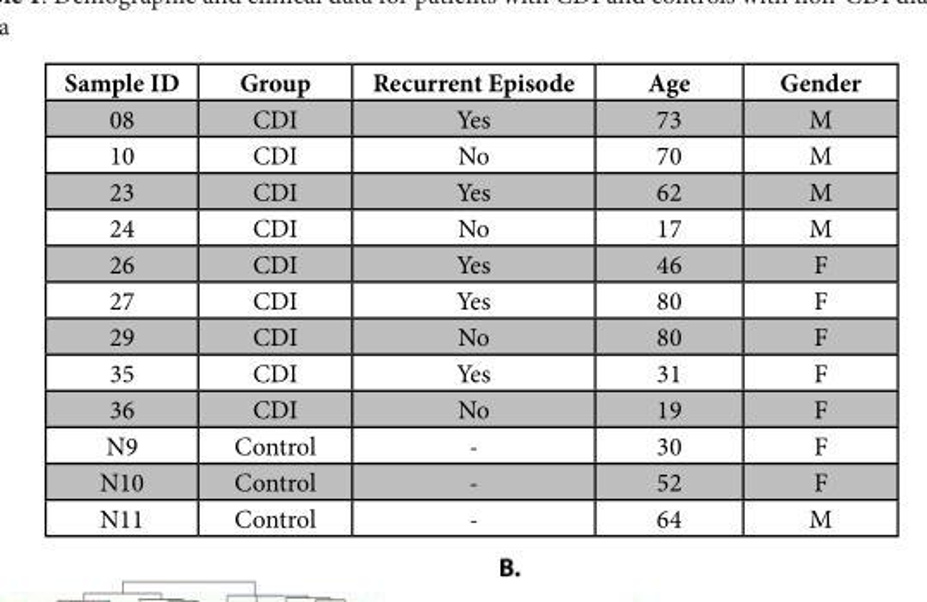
<table><thead><tr><td>Sample ID</td><td>Group</td><td>Recurrent Episode</td><td>Age</td><td>Gender</td></tr></thead><tbody><tr><td>08</td><td>CDI</td><td>Yes</td><td>73</td><td>M</td></tr><tr><td>10</td><td>CDI</td><td>No</td><td>70</td><td>M</td></tr><tr><td>23</td><td>CDI</td><td>Yes</td><td>62</td><td>M</td></tr><tr><td>24</td><td>CDI</td><td>No</td><td>17</td><td>M</td></tr><tr><td>26</td><td>CDI</td><td>Yes</td><td>46</td><td>F</td></tr><tr><td>27</td><td>CDI</td><td>Yes</td><td>80</td><td>F</td></tr><tr><td>29</td><td>CDI</td><td>No</td><td>80</td><td>F</td></tr><tr><td>35</td><td>CDI</td><td>Yes</td><td>31</td><td>F</td></tr><tr><td>36</td><td>CDI</td><td>No</td><td>19</td><td>F</td></tr><tr><td>N9</td><td>Control</td><td>-</td><td>30</td><td>F</td></tr><tr><td>N10</td><td>Control</td><td>-</td><td>52</td><td>F</td></tr><tr><td>N11</td><td>Control</td><td>-</td><td>64</td><td>M</td></tr></tbody></table>